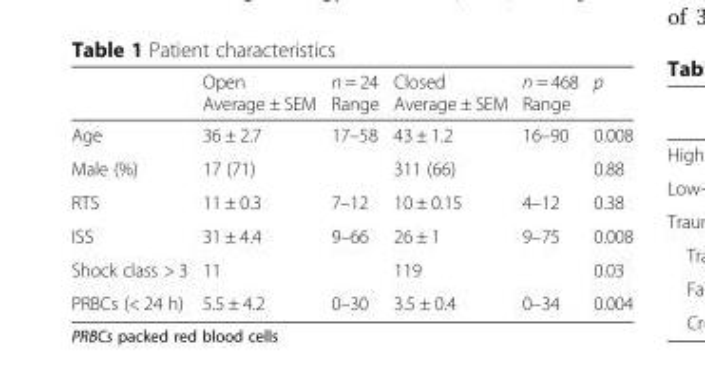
<table><thead><tr><td></td><td>Open Average ± SEM</td><td>n = 24 Range</td><td>Closed Average ± SEM</td><td>n = 468 Range</td><td>p</td></tr></thead><tbody><tr><td>Age</td><td>36 ± 2.7</td><td>17–58</td><td>43 ± 1.2</td><td>16–90</td><td>0.008</td></tr><tr><td>Male (%)</td><td>17 (71)</td><td></td><td>311 (66)</td><td></td><td>0.88</td></tr><tr><td>RTS</td><td>11 ± 0.3</td><td>7–12</td><td>10 ± 0.15</td><td>4–12</td><td>0.38</td></tr><tr><td>ISS</td><td>31 ± 4.4</td><td>9–66</td><td>26 ± 1</td><td>9–75</td><td>0.008</td></tr><tr><td>Shock class &gt; 3</td><td>11</td><td></td><td>119</td><td></td><td>0.03</td></tr><tr><td>PRBCs (&lt; 24 h)</td><td>5.5 ± 4.2</td><td>0–30</td><td>3.5 ± 0.4</td><td>0–34</td><td>0.004</td></tr></tbody></table>